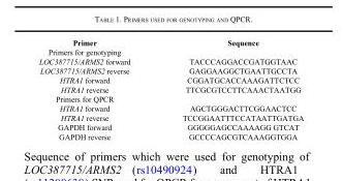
<table><thead><tr><td>Primer</td><td>Sequence</td></tr></thead><tbody><tr><td colspan="2">Primers for genotyping</td></tr><tr><td>LOC387715/ARMS2 forward</td><td>TACCCAGGACCGATGGTAAC</td></tr><tr><td>LOC387715/ARMS2 reverse</td><td>GAGGAAGGCTGAATTGCCTA</td></tr><tr><td>HTRA1 forward</td><td>CGGATGCACCAAAGATTCTCC</td></tr><tr><td>HTRA1 reverse</td><td>TTCGCGTCCTTCAAACTAATGG</td></tr><tr><td colspan="2">Primers for QPCR</td></tr><tr><td>HTRA1 forward</td><td>AGCTGGGACTTCGGAACTCC</td></tr><tr><td>HTRA1 reverse</td><td>TCCGGAATTTCCATAATTGATGA</td></tr><tr><td>GAPDH forward</td><td>GGGGGAGCCAAAAGG GTCAT</td></tr><tr><td>GAPDH reverse</td><td>GCCCCAGCGTCAAAGGTGGA</td></tr></tbody></table>